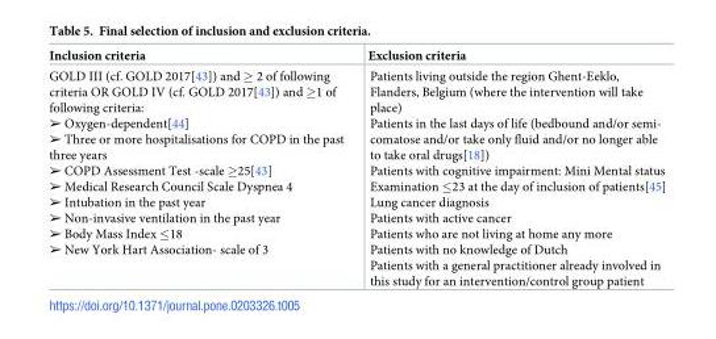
<table><thead><tr><td>Inclusion criteria</td><td>Exclusion criteria</td></tr></thead><tbody><tr><td>GOLD III (cf. GOLD 2017[43]) and ≥ 2 of following criteria OR GOLD IV (cf. GOLD 2017[43]) and ≥1 of following criteria: ➢ Oxygen-dependent[44] ➢ Three or more hospitalisations for COPD in the past three years ➢ COPD Assessment Test -scale ≥25[43] ➢ Medical Research Council Scale Dyspnea 4 ➢ Intubation in the past year ➢ Non-invasive ventilation in the past year ➢ Body Mass Index ≤18 ➢ New York Hart Association- scale of 3</td><td>Patients living outside the region Ghent-Eeklo, Flanders, Belgium (where the intervention will take place) Patients in the last days of life (bedbound and/or semi- comatose and/or take only fluid and/or no longer able to take oral drugs[18]) Patients with cognitive impairment: Mini Mental status Examination ≤23 at the day of inclusion of patients[45] Lung cancer diagnosis Patients with active cancer Patients who are not living at home any more Patients with no knowledge of Dutch Patients with a general practitioner already involved in this study for an intervention/control group patient</td></tr></tbody></table>